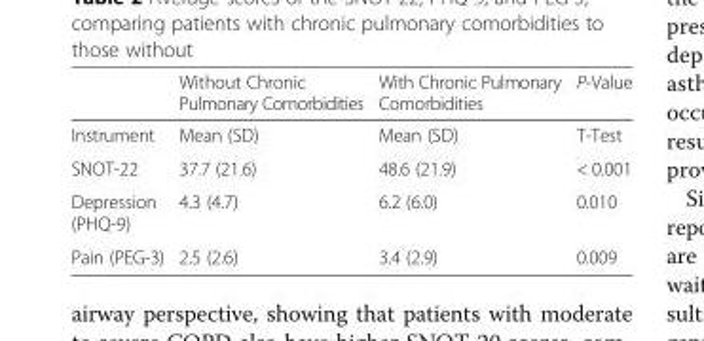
<table><thead><tr><td></td><td>Without Chronic Pulmonary Comorbidities</td><td>With Chronic Pulmonary Comorbidities</td><td>P-Value</td></tr></thead><tbody><tr><td>Instrument</td><td>Mean (SD)</td><td>Mean (SD)</td><td>T-Test</td></tr><tr><td>SNOT-22</td><td>37.7 (21.6)</td><td>48.6 (21.9)</td><td>&lt; 0.001</td></tr><tr><td>Depression (PHQ-9)</td><td>4.3 (4.7)</td><td>6.2 (6.0)</td><td>0.010</td></tr><tr><td>Pain (PEG-3)</td><td>2.5 (2.6)</td><td>3.4 (2.9)</td><td>0.009</td></tr></tbody></table>